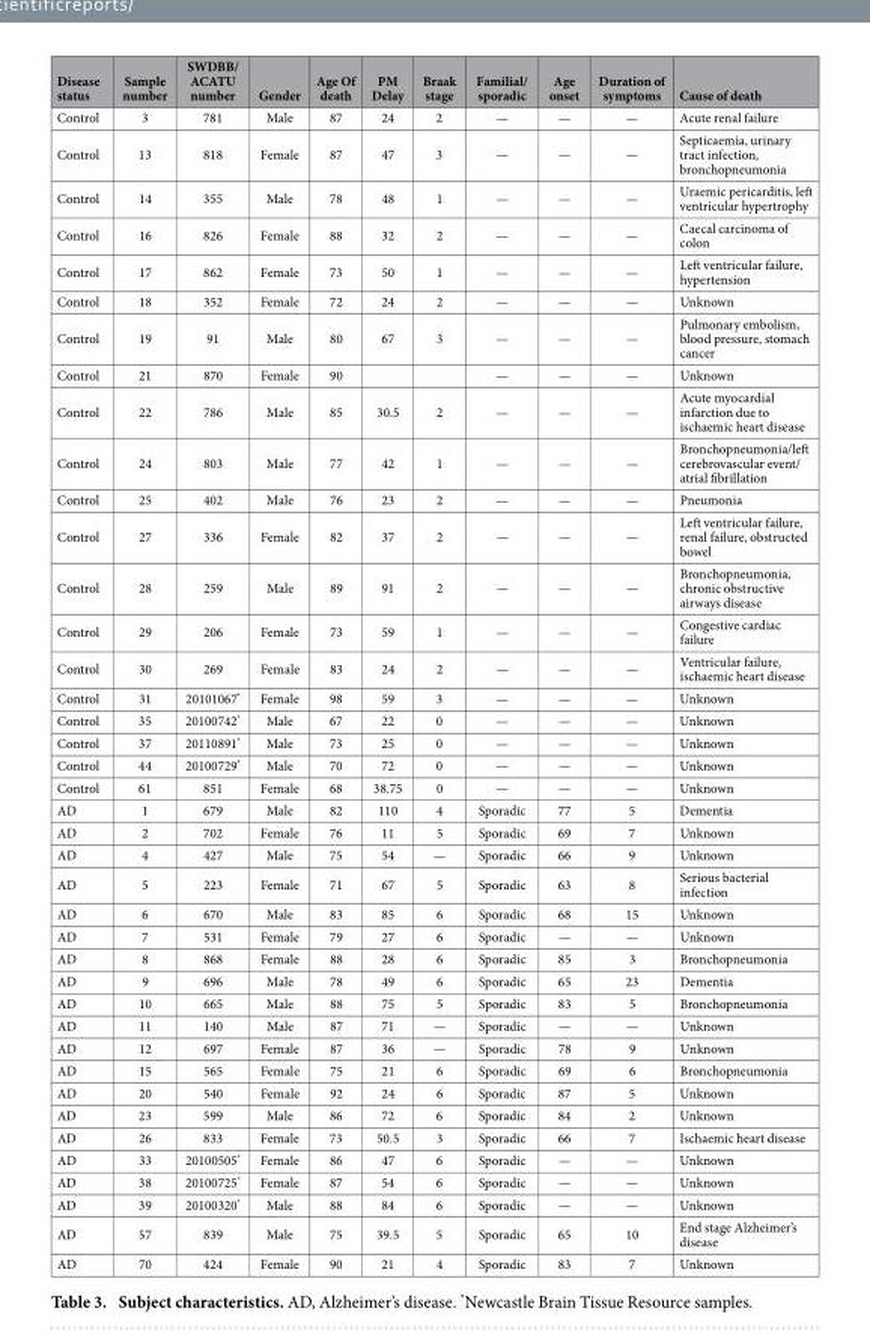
<table><thead><tr><td>Disease status</td><td>Sample number</td><td>SWDBB/ ACATU number</td><td>Gender</td><td>Age Of death</td><td>PM Delay</td><td>Braak stage</td><td>Familial/ sporadic</td><td>Age onset</td><td>Duration of symptoms</td><td>Cause of death</td></tr></thead><tbody><tr><td>Control</td><td>3</td><td>781</td><td>Male</td><td>87</td><td>24</td><td>2</td><td>—</td><td>—</td><td>—</td><td>Acute renal failure</td></tr><tr><td>Control</td><td>13</td><td>818</td><td>Female</td><td>87</td><td>47</td><td>3</td><td>—</td><td>—</td><td>—</td><td>Septicaemia, urinary tract infection, bronchopneumonia</td></tr><tr><td>Control</td><td>14</td><td>355</td><td>Male</td><td>78</td><td>48</td><td>1</td><td>—</td><td>—</td><td>—</td><td>Uraemic pericarditis, left ventricular hypertrophy</td></tr><tr><td>Control</td><td>16</td><td>826</td><td>Female</td><td>88</td><td>32</td><td>2</td><td>—</td><td>—</td><td>—</td><td>Caecal carcinoma of colon</td></tr><tr><td>Control</td><td>17</td><td>862</td><td>Female</td><td>73</td><td>50</td><td>1</td><td>—</td><td>—</td><td>—</td><td>Left ventricular failure, hypertension</td></tr><tr><td>Control</td><td>18</td><td>352</td><td>Female</td><td>72</td><td>24</td><td>2</td><td>—</td><td>—</td><td>—</td><td>Unknown</td></tr><tr><td>Control</td><td>19</td><td>91</td><td>Male</td><td>80</td><td>67</td><td>3</td><td>—</td><td>—</td><td>—</td><td>Pulmonary embolism, blood pressure, stomach cancer</td></tr><tr><td>Control</td><td>21</td><td>870</td><td>Female</td><td>90</td><td></td><td></td><td>—</td><td>—</td><td>—</td><td>Unknown</td></tr><tr><td>Control</td><td>22</td><td>786</td><td>Male</td><td>85</td><td>30.5</td><td>2</td><td>—</td><td>—</td><td>—</td><td>Acute myocardial infarction due to ischaemic heart disease</td></tr><tr><td>Control</td><td>24</td><td>803</td><td>Male</td><td>77</td><td>42</td><td>1</td><td>—</td><td>—</td><td>—</td><td>Bronchopneumonia/left cerebrovascular event/ atrial fibrillation</td></tr><tr><td>Control</td><td>25</td><td>402</td><td>Male</td><td>76</td><td>23</td><td>2</td><td>—</td><td>—</td><td>—</td><td>Pneumonia</td></tr><tr><td>Control</td><td>27</td><td>336</td><td>Female</td><td>82</td><td>37</td><td>2</td><td>—</td><td>—</td><td>—</td><td>Left ventricular failure, renal failure, obstructed bowel</td></tr><tr><td>Control</td><td>28</td><td>259</td><td>Male</td><td>89</td><td>91</td><td>2</td><td>—</td><td>—</td><td>—</td><td>Bronchopneumonia, chronic obstructive airways disease</td></tr><tr><td>Control</td><td>29</td><td>206</td><td>Female</td><td>73</td><td>59</td><td>1</td><td>—</td><td>—</td><td>—</td><td>Congestive cardiac failure</td></tr><tr><td>Control</td><td>30</td><td>269</td><td>Female</td><td>83</td><td>24</td><td>2</td><td>—</td><td>—</td><td>—</td><td>Ventricular failure, ischaemic heart disease</td></tr><tr><td>Control</td><td>31</td><td>20101067*</td><td>Female</td><td>98</td><td>59</td><td>3</td><td>—</td><td>—</td><td>—</td><td>Unknown</td></tr><tr><td>Control</td><td>35</td><td>20100742*</td><td>Male</td><td>67</td><td>22</td><td>0</td><td>—</td><td>—</td><td>—</td><td>Unknown</td></tr><tr><td>Control</td><td>37</td><td>20110891*</td><td>Male</td><td>73</td><td>25</td><td>0</td><td>—</td><td>—</td><td>—</td><td>Unknown</td></tr><tr><td>Control</td><td>44</td><td>20100729*</td><td>Male</td><td>70</td><td>72</td><td>0</td><td>—</td><td>—</td><td>—</td><td>Unknown</td></tr><tr><td>Control</td><td>61</td><td>851</td><td>Female</td><td>68</td><td>38.75</td><td>0</td><td>—</td><td>—</td><td>—</td><td>Unknown</td></tr><tr><td>AD</td><td>1</td><td>679</td><td>Male</td><td>82</td><td>110</td><td>4</td><td>Sporadic</td><td>77</td><td>5</td><td>Dementia</td></tr><tr><td>AD</td><td>2</td><td>702</td><td>Female</td><td>76</td><td>11</td><td>5</td><td>Sporadic</td><td>69</td><td>7</td><td>Unknown</td></tr><tr><td>AD</td><td>4</td><td>427</td><td>Male</td><td>75</td><td>54</td><td>—</td><td>Sporadic</td><td>66</td><td>9</td><td>Unknown</td></tr><tr><td>AD</td><td>5</td><td>223</td><td>Female</td><td>71</td><td>67</td><td>5</td><td>Sporadic</td><td>63</td><td>8</td><td>Serious bacterial infection</td></tr><tr><td>AD</td><td>6</td><td>670</td><td>Male</td><td>83</td><td>85</td><td>6</td><td>Sporadic</td><td>68</td><td>15</td><td>Unknown</td></tr><tr><td>AD</td><td>7</td><td>531</td><td>Female</td><td>79</td><td>27</td><td>6</td><td>Sporadic</td><td>—</td><td>—</td><td>Unknown</td></tr><tr><td>AD</td><td>8</td><td>868</td><td>Female</td><td>88</td><td>28</td><td>6</td><td>Sporadic</td><td>85</td><td>3</td><td>Bronchopneumonia</td></tr><tr><td>AD</td><td>9</td><td>696</td><td>Male</td><td>78</td><td>49</td><td>6</td><td>Sporadic</td><td>65</td><td>23</td><td>Dementia</td></tr><tr><td>AD</td><td>10</td><td>665</td><td>Male</td><td>88</td><td>75</td><td>5</td><td>Sporadic</td><td>83</td><td>5</td><td>Bronchopneumonia</td></tr><tr><td>AD</td><td>11</td><td>140</td><td>Male</td><td>87</td><td>71</td><td>—</td><td>Sporadic</td><td>—</td><td>—</td><td>Unknown</td></tr><tr><td>AD</td><td>12</td><td>697</td><td>Female</td><td>87</td><td>36</td><td>—</td><td>Sporadic</td><td>78</td><td>9</td><td>Unknown</td></tr><tr><td>AD</td><td>15</td><td>565</td><td>Female</td><td>75</td><td>21</td><td>6</td><td>Sporadic</td><td>69</td><td>6</td><td>Bronchopneumonia</td></tr><tr><td>AD</td><td>20</td><td>540</td><td>Female</td><td>92</td><td>24</td><td>6</td><td>Sporadic</td><td>87</td><td>5</td><td>Unknown</td></tr><tr><td>AD</td><td>23</td><td>599</td><td>Male</td><td>86</td><td>72</td><td>6</td><td>Sporadic</td><td>84</td><td>2</td><td>Unknown</td></tr><tr><td>AD</td><td>26</td><td>833</td><td>Female</td><td>73</td><td>50.5</td><td>3</td><td>Sporadic</td><td>66</td><td>7</td><td>Ischaemic heart disease</td></tr><tr><td>AD</td><td>33</td><td>20100505*</td><td>Female</td><td>86</td><td>47</td><td>6</td><td>Sporadic</td><td>—</td><td>—</td><td>Unknown</td></tr><tr><td>AD</td><td>38</td><td>20100725*</td><td>Female</td><td>87</td><td>54</td><td>6</td><td>Sporadic</td><td>—</td><td>—</td><td>Unknown</td></tr><tr><td>AD</td><td>39</td><td>20100320*</td><td>Male</td><td>88</td><td>84</td><td>6</td><td>Sporadic</td><td>—</td><td>—</td><td>Unknown</td></tr><tr><td>AD</td><td>57</td><td>839</td><td>Male</td><td>75</td><td>39.5</td><td>5</td><td>Sporadic</td><td>65</td><td>10</td><td>End stage Alzheimer’s disease</td></tr><tr><td>AD</td><td>70</td><td>424</td><td>Female</td><td>90</td><td>21</td><td>4</td><td>Sporadic</td><td>83</td><td>7</td><td>Unknown</td></tr></tbody></table>